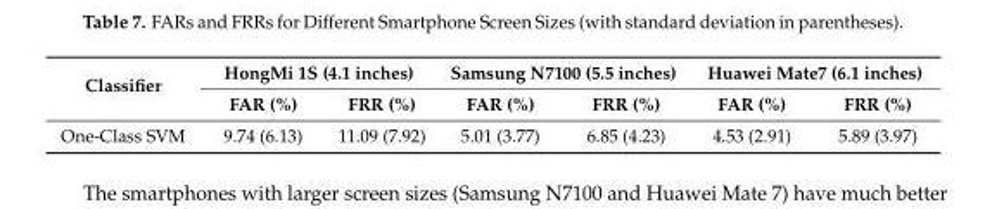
<table><thead><tr><td rowspan="2">Classifier</td><td colspan="2">HongMi 1S (4.1 inches)</td><td colspan="2">Samsung N7100 (5.5 inches)</td><td colspan="2">Huawei Mate7 (6.1 inches)</td></tr><tr><td>FAR (%)</td><td>FRR (%)</td><td>FAR (%)</td><td>FRR (%)</td><td>FAR (%)</td><td>FRR (%)</td></tr></thead><tbody><tr><td>One-Class SVM</td><td>9.74 (6.13)</td><td>11.09 (7.92)</td><td>5.01 (3.77)</td><td>6.85 (4.23)</td><td>4.53 (2.91)</td><td>5.89 (3.97)</td></tr></tbody></table>